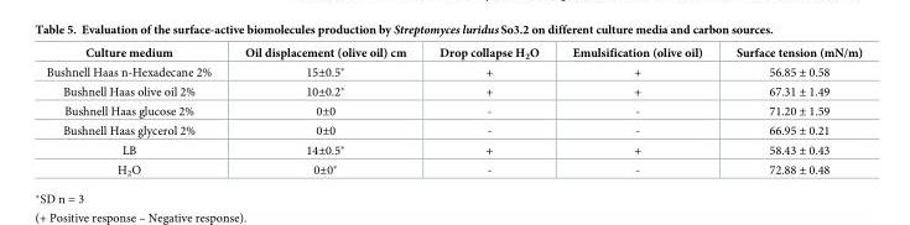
<table><thead><tr><td>Culture medium</td><td>Oil displacement (olive oil) cm</td><td>Drop collapse H<sub>2</sub>O</td><td>Emulsification (olive oil)</td><td>Surface tension (mN/m)</td></tr></thead><tbody><tr><td>Bushnell Haas n-Hexadecane 2%</td><td>15±0.5*</td><td>+</td><td>+</td><td>56.85 ± 0.58</td></tr><tr><td>Bushnell Haas olive oil 2%</td><td>10±0.2*</td><td>+</td><td>+</td><td>67.31 ± 1.49</td></tr><tr><td>Bushnell Haas glucose 2%</td><td>0±0</td><td>-</td><td>-</td><td>71.20 ± 1.59</td></tr><tr><td>Bushnell Haas glycerol 2%</td><td>0±0</td><td>-</td><td>-</td><td>66.95 ± 0.21</td></tr><tr><td>LB</td><td>14±0.5*</td><td>+</td><td>+</td><td>58.43 ± 0.43</td></tr><tr><td>H<sub>2</sub>O</td><td>0±0*</td><td>-</td><td>-</td><td>72.88 ± 0.48</td></tr></tbody></table>